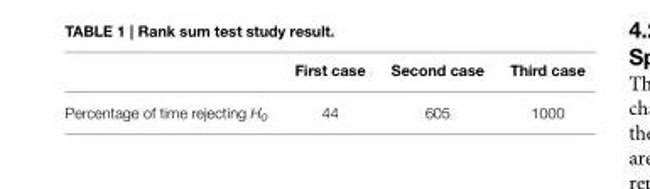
<table><thead><tr><td></td><td>First case</td><td>Second case</td><td>Third case</td></tr></thead><tbody><tr><td>Percentage of time rejecting H<sub>o</sub></td><td>44</td><td>605</td><td>1000</td></tr></tbody></table>